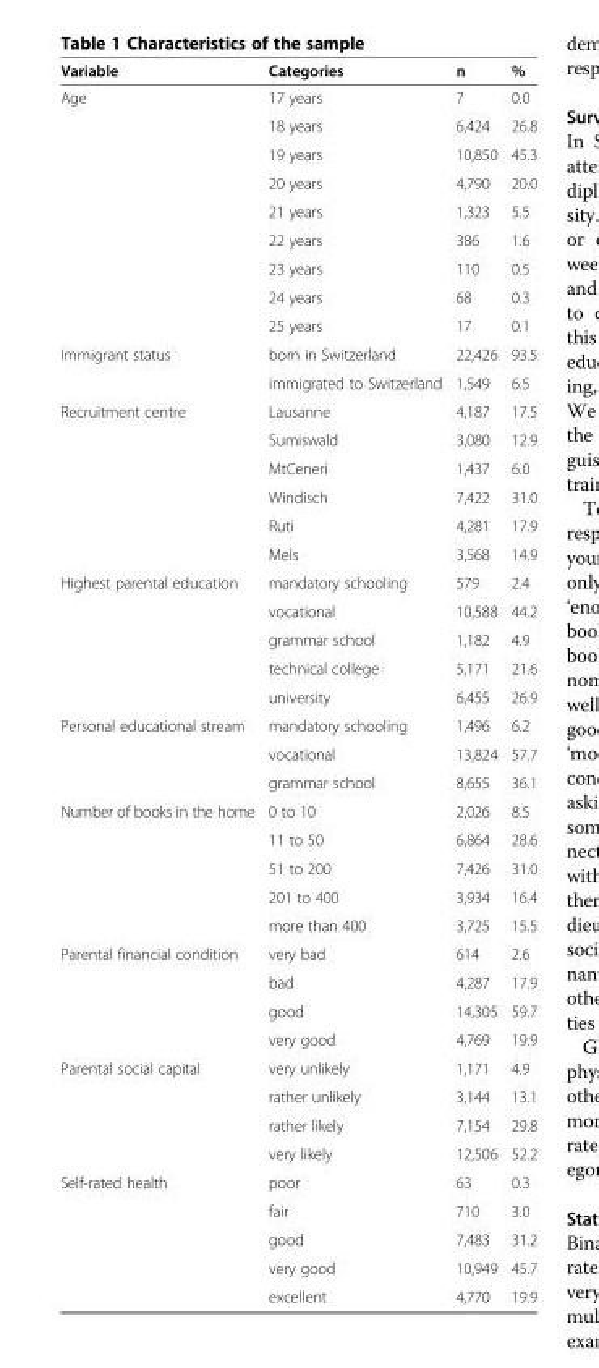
<table><thead><tr><td>Variable</td><td>Categories</td><td>n</td><td>%</td></tr></thead><tbody><tr><td rowspan="9">Age</td><td>17 years</td><td>7</td><td>0.0</td></tr><tr><td>18 years</td><td>6,424</td><td>26.8</td></tr><tr><td>19 years</td><td>10,850</td><td>45.3</td></tr><tr><td>20 years</td><td>4,790</td><td>20.0</td></tr><tr><td>21 years</td><td>1,323</td><td>5.5</td></tr><tr><td>22 years</td><td>386</td><td>1.6</td></tr><tr><td>23 years</td><td>110</td><td>0.5</td></tr><tr><td>24 years</td><td>68</td><td>0.3</td></tr><tr><td>25 years</td><td>17</td><td>0.1</td></tr><tr><td rowspan="2">Immigrant status</td><td>born in Switzerland</td><td>22,426</td><td>93.5</td></tr><tr><td>immigrated to Switzerland</td><td>1,549</td><td>6.5</td></tr><tr><td rowspan="6">Recruitment centre</td><td>Lausanne</td><td>4,187</td><td>17.5</td></tr><tr><td>Sumiswald</td><td>3,080</td><td>12.9</td></tr><tr><td>MtCeneri</td><td>1,437</td><td>6.0</td></tr><tr><td>Windisch</td><td>7,422</td><td>31.0</td></tr><tr><td>Ruti</td><td>4,281</td><td>17.9</td></tr><tr><td>Mels</td><td>3,568</td><td>14.9</td></tr><tr><td rowspan="5">Highest parental education</td><td>mandatory schooling</td><td>579</td><td>2.4</td></tr><tr><td>vocational</td><td>10,588</td><td>44.2</td></tr><tr><td>grammar school</td><td>1,182</td><td>4.9</td></tr><tr><td>technical college</td><td>5,171</td><td>21.6</td></tr><tr><td>university</td><td>6,455</td><td>26.9</td></tr><tr><td rowspan="3">Personal educational stream</td><td>mandatory schooling</td><td>1,496</td><td>6.2</td></tr><tr><td>vocational</td><td>13,824</td><td>57.7</td></tr><tr><td>grammar school</td><td>8,655</td><td>36.1</td></tr><tr><td rowspan="5">Number of books in the home</td><td>0 to 10</td><td>2,026</td><td>8.5</td></tr><tr><td>11 to 50</td><td>6,864</td><td>28.6</td></tr><tr><td>51 to 200</td><td>7,426</td><td>31.0</td></tr><tr><td>201 to 400</td><td>3,934</td><td>16.4</td></tr><tr><td>more than 400</td><td>3,725</td><td>15.5</td></tr><tr><td rowspan="4">Parental financial condition</td><td>very bad</td><td>614</td><td>2.6</td></tr><tr><td>bad</td><td>4,287</td><td>17.9</td></tr><tr><td>good</td><td>14,305</td><td>59.7</td></tr><tr><td>very good</td><td>4,769</td><td>19.9</td></tr><tr><td rowspan="4">Parental social capital</td><td>very unlikely</td><td>1,171</td><td>4.9</td></tr><tr><td>rather unlikely</td><td>3,144</td><td>13.1</td></tr><tr><td>rather likely</td><td>7,154</td><td>29.8</td></tr><tr><td>very likely</td><td>12,506</td><td>52.2</td></tr><tr><td rowspan="5">Self-rated health</td><td>poor</td><td>63</td><td>0.3</td></tr><tr><td>fair</td><td>710</td><td>3.0</td></tr><tr><td>good</td><td>7,483</td><td>31.2</td></tr><tr><td>very good</td><td>10,949</td><td>45.7</td></tr><tr><td>excellent</td><td>4,770</td><td>19.9</td></tr></tbody></table>